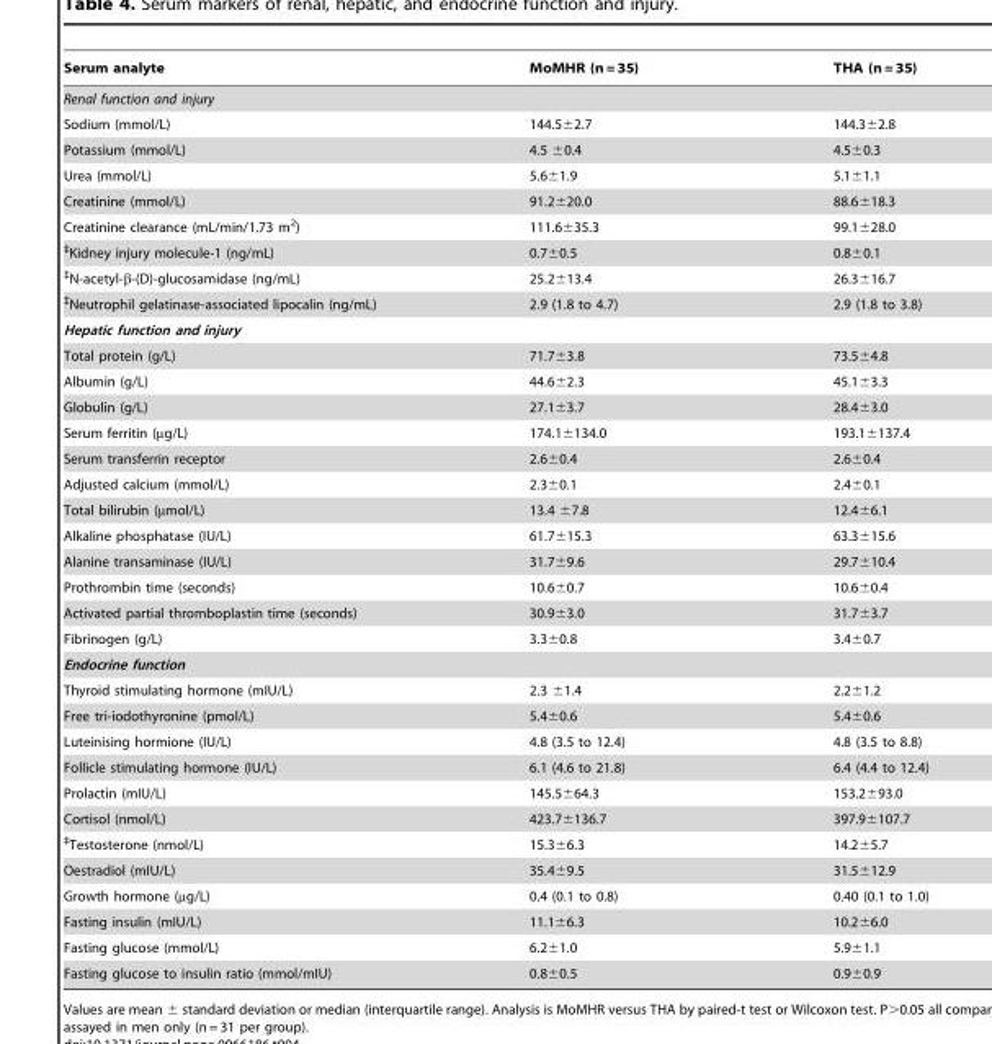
<table><thead><tr><td>Serum analyte</td><td>MoMHR (n = 35)</td><td>THA (n = 35)</td></tr></thead><tbody><tr><td colspan="3">Renal function and injury</td></tr><tr><td>Sodium (mmol/L)</td><td>144.5±2.7</td><td>144.3±2.8</td></tr><tr><td>Potassium (mmol/L)</td><td>4.5 ±0.4</td><td>4.5±0.3</td></tr><tr><td>Urea (mmol/L)</td><td>5.6±1.9</td><td>5.1±1.1</td></tr><tr><td>Creatinine (mmol/L)</td><td>91.2±20.0</td><td>88.6±18.3</td></tr><tr><td>Creatinine clearance (mL/min/1.73 m<sup>2</sup>)</td><td>111.6±35.3</td><td>99.1±28.0</td></tr><tr><td><sup>‡</sup>Kidney injury molecule-1 (ng/mL)</td><td>0.7±0.5</td><td>0.8±0.1</td></tr><tr><td><sup>‡</sup>N-acetyl-β-(D)-glucosamidase (ng/mL)</td><td>25.2±13.4</td><td>26.3±16.7</td></tr><tr><td><sup>‡</sup>Neutrophil gelatinase-associated lipocalin (ng/mL)</td><td>2.9 (1.8 to 4.7)</td><td>2.9 (1.8 to 3.8)</td></tr><tr><td colspan="3">Hepatic function and injury</td></tr><tr><td>Total protein (g/L)</td><td>71.7±3.8</td><td>73.5±4.8</td></tr><tr><td>Albumin (g/L)</td><td>44.6±2.3</td><td>45.1±3.3</td></tr><tr><td>Globulin (g/L)</td><td>27.1±3.7</td><td>28.4±3.0</td></tr><tr><td>Serum ferritin (µg/L)</td><td>174.1±134.0</td><td>193.1±137.4</td></tr><tr><td>Serum transferrin receptor</td><td>2.6±0.4</td><td>2.6±0.4</td></tr><tr><td>Adjusted calcium (mmol/L)</td><td>2.3±0.1</td><td>2.4±0.1</td></tr><tr><td>Total bilirubin (µmol/L)</td><td>13.4 ±7.8</td><td>12.4±6.1</td></tr><tr><td>Alkaline phosphatase (IU/L)</td><td>61.7±15.3</td><td>63.3±15.6</td></tr><tr><td>Alanine transaminase (IU/L)</td><td>31.7±9.6</td><td>29.7±10.4</td></tr><tr><td>Prothrombin time (seconds)</td><td>10.6±0.7</td><td>10.6±0.4</td></tr><tr><td>Activated partial thromboplastin time (seconds)</td><td>30.9±3.0</td><td>31.7±3.7</td></tr><tr><td>Fibrinogen (g/L)</td><td>3.3±0.8</td><td>3.4±0.7</td></tr><tr><td colspan="3">Endocrine function</td></tr><tr><td>Thyroid stimulating hormone (mIU/L)</td><td>2.3 ±1.4</td><td>2.2±1.2</td></tr><tr><td>Free tri-iodothyronine (pmol/L)</td><td>5.4±0.6</td><td>5.4±0.6</td></tr><tr><td>Luteinising hormione (IU/L)</td><td>4.8 (3.5 to 12.4)</td><td>4.8 (3.5 to 8.8)</td></tr><tr><td>Follicle stimulating hormone (IU/L)</td><td>6.1 (4.6 to 21.8)</td><td>6.4 (4.4 to 12.4)</td></tr><tr><td>Prolactin (mIU/L)</td><td>145.5±64.3</td><td>153.2±93.0</td></tr><tr><td>Cortisol (nmol/L)</td><td>423.7±136.7</td><td>397.9±107.7</td></tr><tr><td><sup>‡</sup>Testosterone (nmol/L)</td><td>15.3±6.3</td><td>14.2±5.7</td></tr><tr><td>Oestradiol (mIU/L)</td><td>35.4±9.5</td><td>31.5±12.9</td></tr><tr><td>Growth hormone (µg/L)</td><td>0.4 (0.1 to 0.8)</td><td>0.40 (0.1 to 1.0)</td></tr><tr><td>Fasting insulin (mIU/L)</td><td>11.1±6.3</td><td>10.2±6.0</td></tr><tr><td>Fasting glucose (mmol/L)</td><td>6.2±1.0</td><td>5.9±1.1</td></tr><tr><td>Fasting glucose to insulin ratio (mmol/mIU)</td><td>0.8±0.5</td><td>0.9±0.9</td></tr></tbody></table>